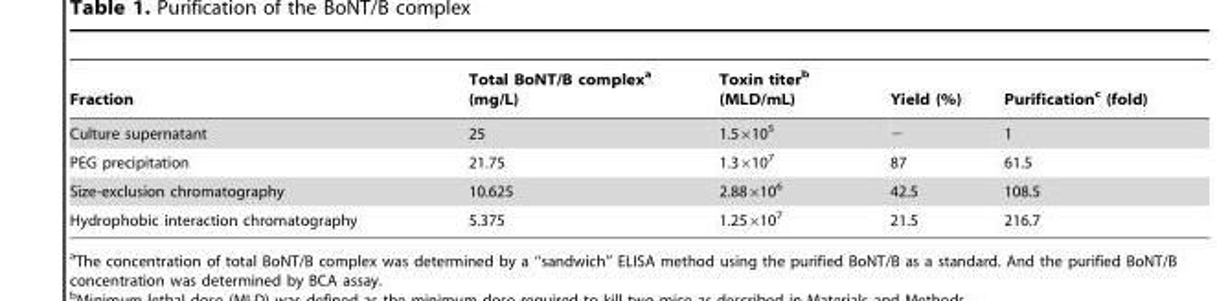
<table><thead><tr><td>Fraction</td><td>Total BoNT/B complex<sup>a</sup> (mg/L)</td><td>Toxin titer<sup>b</sup> (MLD/mL)</td><td>Yield (%)</td><td>Purification<sup>c</sup> (fold)</td></tr></thead><tbody><tr><td>Culture supernatant</td><td>25</td><td>1.5×10<sup>5</sup></td><td>−</td><td>1</td></tr><tr><td>PEG precipitation</td><td>21.75</td><td>1.3×10<sup>7</sup></td><td>87</td><td>61.5</td></tr><tr><td>Size-exclusion chromatography</td><td>10.625</td><td>2.88×10<sup>6</sup></td><td>42.5</td><td>108.5</td></tr><tr><td>Hydrophobic interaction chromatography</td><td>5.375</td><td>1.25×10<sup>7</sup></td><td>21.5</td><td>216.7</td></tr></tbody></table>